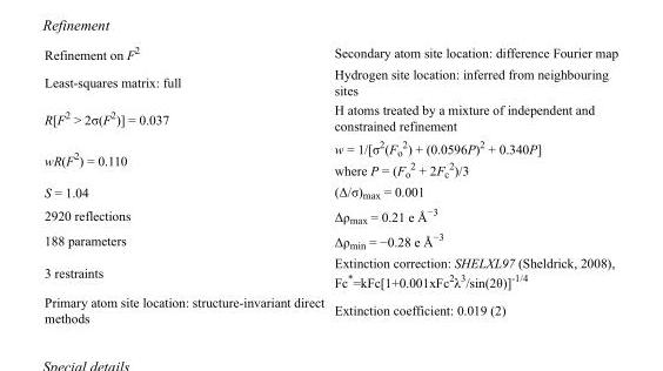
<table><tbody><tr><td>Refinement on F<sup>2</sup></td><td>Secondary atom site location: difference Fourier map</td></tr><tr><td>Least-squares matrix: full</td><td>Hydrogen site location: inferred from neighbouring sites</td></tr><tr><td>R[F<sup>2</sup> &gt; 2σ(F<sup>2</sup>)] = 0.037</td><td>H atoms treated by a mixture of independent and constrained refinement</td></tr><tr><td>wR(F<sup>2</sup>) = 0.110</td><td>w = 1/[σ<sup>2</sup>(F<sub>o</sub> <sup>2</sup>) + (0.0596P)<sup>2</sup> + 0.340P] where P = (F<sub>o</sub> <sup>2</sup> + 2F<sub>c</sub> <sup>2</sup>)/3</td></tr><tr><td>S = 1.04</td><td>(Δ/σ)<sub>max</sub> = 0.001</td></tr><tr><td>2920 reflections</td><td>Δρ<sub>max</sub> = 0.21 e Å<sup>−3</sup></td></tr><tr><td>188 parameters</td><td>Δρ<sub>min</sub> = −0.28 e Å<sup>−3</sup></td></tr><tr><td>3 restraints</td><td>Extinction correction: SHELXL97 (Sheldrick, 2008), Fc*=kFc[1+0.001xFc<sup>2</sup>λ<sup>3</sup>/sin(2θ)]<sup>-1/4</sup></td></tr><tr><td>Primary atom site location: structure-invariant direct methods</td><td>Extinction coefficient: 0.019 (2)</td></tr></tbody></table>